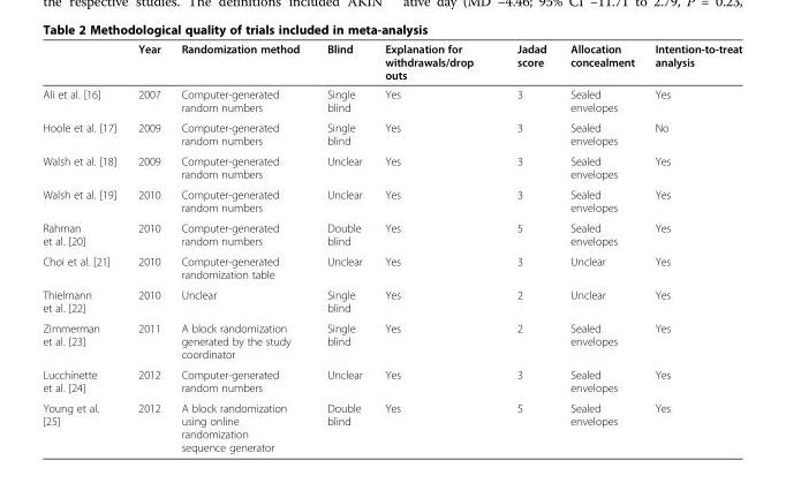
<table><thead><tr><td></td><td>Year</td><td>Randomization method</td><td>Blind</td><td>Explanation for withdrawals/drop outs</td><td>Jadad score</td><td>Allocation concealment</td><td>Intention-to-treat analysis</td></tr></thead><tbody><tr><td>Ali et al. [16]</td><td>2007</td><td>Computer-generated random numbers</td><td>Single blind</td><td>Yes</td><td>3</td><td>Sealed envelopes</td><td>Yes</td></tr><tr><td>Hoole et al. [17]</td><td>2009</td><td>Computer-generated random numbers</td><td>Single blind</td><td>Yes</td><td>3</td><td>Sealed envelopes</td><td>No</td></tr><tr><td>Walsh et al. [18]</td><td>2009</td><td>Computer-generated random numbers</td><td>Unclear</td><td>Yes</td><td>3</td><td>Sealed envelopes</td><td>Yes</td></tr><tr><td>Walsh et al. [19]</td><td>2010</td><td>Computer-generated random numbers</td><td>Unclear</td><td>Yes</td><td>3</td><td>Sealed envelopes</td><td>Yes</td></tr><tr><td>Rahman et al. [20]</td><td>2010</td><td>Computer-generated random numbers</td><td>Double blind</td><td>Yes</td><td>5</td><td>Sealed envelopes</td><td>Yes</td></tr><tr><td>Choi et al. [21]</td><td>2010</td><td>Computer-generated randomization table</td><td>Unclear</td><td>Yes</td><td>3</td><td>Unclear</td><td>Yes</td></tr><tr><td>Thielmann et al. [22]</td><td>2010</td><td>Unclear</td><td>Single blind</td><td>Yes</td><td>2</td><td>Unclear</td><td>Yes</td></tr><tr><td>Zimmerman et al. [23]</td><td>2011</td><td>A block randomization generated by the study coordinator</td><td>Single blind</td><td>Yes</td><td>2</td><td>Sealed envelopes</td><td>Yes</td></tr><tr><td>Lucchinette et al. [24]</td><td>2012</td><td>Computer-generated random numbers</td><td>Unclear</td><td>Yes</td><td>3</td><td>Sealed envelopes</td><td>Yes</td></tr><tr><td>Young et al. [25]</td><td>2012</td><td>A block randomization using online randomization sequence generator</td><td>Double blind</td><td>Yes</td><td>5</td><td>Sealed envelopes</td><td>Yes</td></tr></tbody></table>